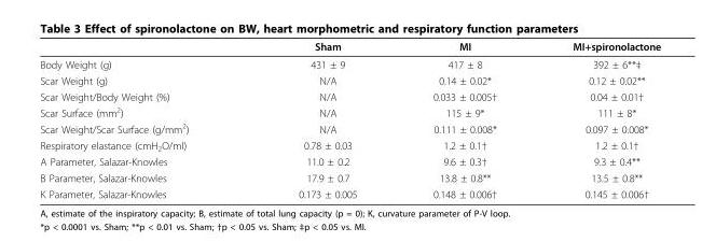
<table><thead><tr><td></td><td>Sham</td><td>MI</td><td>MI+spironolactone</td></tr></thead><tbody><tr><td>Body Weight (g)</td><td>431 ± 9</td><td>417 ± 8</td><td>392 ± 6**‡</td></tr><tr><td>Scar Weight (g)</td><td>N/A</td><td>0.14 ± 0.02*</td><td>0.12 ± 0.02**</td></tr><tr><td>Scar Weight/Body Weight (%)</td><td>N/A</td><td>0.033 ± 0.005†</td><td>0.04 ± 0.01†</td></tr><tr><td>Scar Surface (mm<sup>2</sup>)</td><td>N/A</td><td>115 ± 9*</td><td>111 ± 8*</td></tr><tr><td>Scar Weight/Scar Surface (g/mm<sup>2</sup>)</td><td>N/A</td><td>0.111 ± 0.008*</td><td>0.097 ± 0.008*</td></tr><tr><td>Respiratory elastance (cmH<sub>2</sub>O/ml)</td><td>0.78 ± 0.03</td><td>1.2 ± 0.1†</td><td>1.2 ± 0.1†</td></tr><tr><td>A Parameter, Salazar-Knowles</td><td>11.0 ± 0.2</td><td>9.6 ± 0.3†</td><td>9.3 ± 0.4**</td></tr><tr><td>B Parameter, Salazar-Knowles</td><td>17.9 ± 0.7</td><td>13.8 ± 0.8**</td><td>13.5 ± 0.8**</td></tr><tr><td>K Parameter, Salazar-Knowles</td><td>0.173 ± 0.005</td><td>0.148 ± 0.006†</td><td>0.145 ± 0.006†</td></tr></tbody></table>